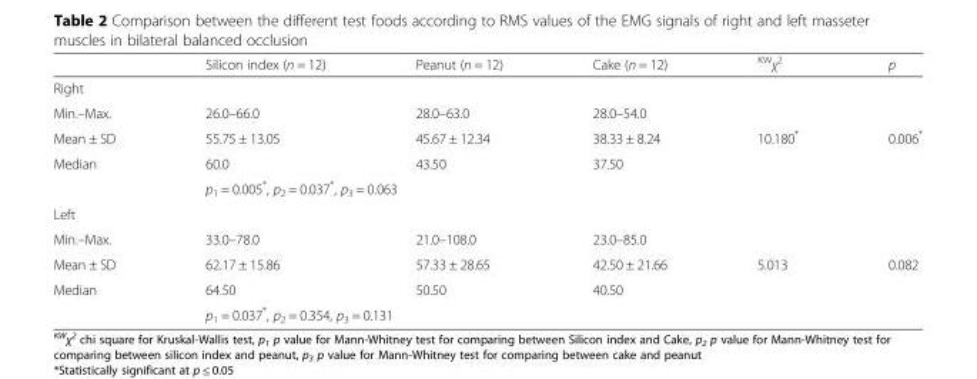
<table><thead><tr><td></td><td>Silicon index (n = 12)</td><td>Peanut (n = 12)</td><td>Cake (n = 12)</td><td><sup>KW</sup>χ<sup>2</sup></td><td>p</td></tr></thead><tbody><tr><td colspan="6">Right</td></tr><tr><td>Min.–Max.</td><td>26.0–66.0</td><td>28.0–63.0</td><td>28.0–54.0</td><td></td><td></td></tr><tr><td>Mean ± SD</td><td>55.75 ± 13.05</td><td>45.67 ± 12.34</td><td>38.33 ± 8.24</td><td>10.180*</td><td>0.006*</td></tr><tr><td rowspan="2">Median</td><td>60.0</td><td>43.50</td><td>37.50</td><td></td><td></td></tr><tr><td colspan="3">p<sub>1</sub> = 0.005*, p<sub>2</sub> = 0.037*, p<sub>3</sub> = 0.063</td><td></td><td></td></tr><tr><td colspan="6">Left</td></tr><tr><td>Min.–Max.</td><td>33.0–78.0</td><td>21.0–108.0</td><td>23.0–85.0</td><td></td><td></td></tr><tr><td>Mean ± SD</td><td>62.17 ± 15.86</td><td>57.33 ± 28.65</td><td>42.50 ± 21.66</td><td>5.013</td><td>0.082</td></tr><tr><td rowspan="2">Median</td><td>64.50</td><td>50.50</td><td>40.50</td><td></td><td></td></tr><tr><td colspan="3">p<sub>1</sub> = 0.037*, p<sub>2</sub> = 0.354, p<sub>3</sub> = 0.131</td><td></td><td></td></tr></tbody></table>